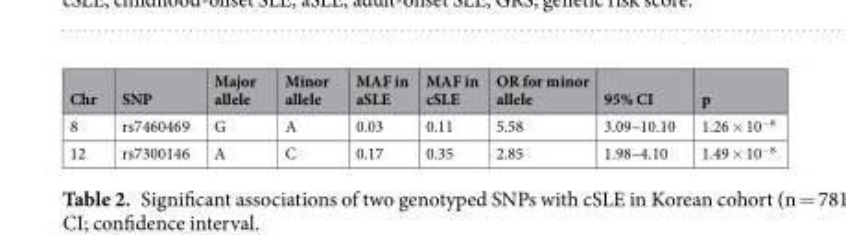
<table><thead><tr><td>Chr</td><td>SNP</td><td>Major allele</td><td>Minor allele</td><td>MAF in aSLE</td><td>MAF in cSLE</td><td>OR for minor allele</td><td>95% CI</td><td>p</td></tr></thead><tbody><tr><td>8</td><td>rs7460469</td><td>G</td><td>A</td><td>0.03</td><td>0.11</td><td>5.58</td><td>3.09–10.10</td><td>1.26 × 10<sup>−8</sup></td></tr><tr><td>12</td><td>rs7300146</td><td>A</td><td>C</td><td>0.17</td><td>0.35</td><td>2.85</td><td>1.98–4.10</td><td>1.49 × 10<sup>−8</sup></td></tr></tbody></table>